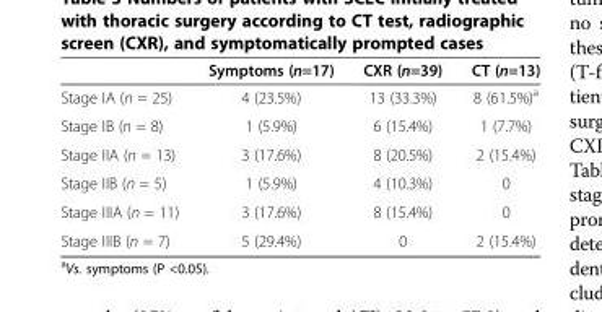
<table><thead><tr><td></td><td>Symptoms (n=17)</td><td>CXR (n=39)</td><td>CT (n=13)</td></tr></thead><tbody><tr><td>Stage IA (n = 25)</td><td>4 (23.5%)</td><td>13 (33.3%)</td><td>8 (61.5%)<sup>a</sup></td></tr><tr><td>Stage IB (n = 8)</td><td>1 (5.9%)</td><td>6 (15.4%)</td><td>1 (7.7%)</td></tr><tr><td>Stage IIA (n = 13)</td><td>3 (17.6%)</td><td>8 (20.5%)</td><td>2 (15.4%)</td></tr><tr><td>Stage IIB (n = 5)</td><td>1 (5.9%)</td><td>4 (10.3%)</td><td>0</td></tr><tr><td>Stage IIIA (n = 11)</td><td>3 (17.6%)</td><td>8 (15.4%)</td><td>0</td></tr><tr><td>Stage IIIB (n = 7)</td><td>5 (29.4%)</td><td>0</td><td>2 (15.4%)</td></tr></tbody></table>